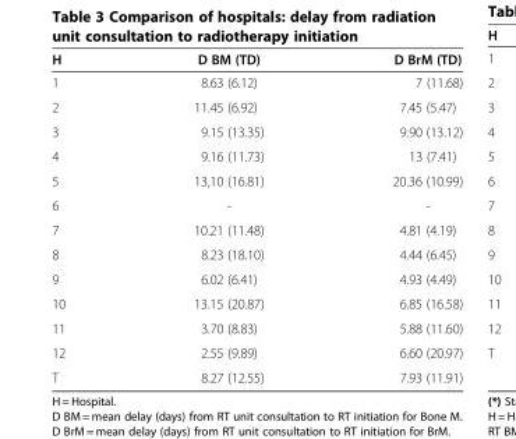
<table><thead><tr><td>H</td><td>D BM (TD)</td><td>D BrM (TD)</td></tr></thead><tbody><tr><td>1</td><td>8.63 (6.12)</td><td>7 (11.68)</td></tr><tr><td>2</td><td>11.45 (6.92)</td><td>7.45 (5.47)</td></tr><tr><td>3</td><td>9.15 (13.35)</td><td>9.90 (13.12)</td></tr><tr><td>4</td><td>9.16 (11.73)</td><td>13 (7.41)</td></tr><tr><td>5</td><td>13,10 (16.81)</td><td>20.36 (10.99)</td></tr><tr><td>6</td><td>-</td><td>-</td></tr><tr><td>7</td><td>10.21 (11.48)</td><td>4.81 (4.19)</td></tr><tr><td>8</td><td>8.23 (18.10)</td><td>4.44 (6.45)</td></tr><tr><td>9</td><td>6.02 (6.41)</td><td>4.93 (4.49)</td></tr><tr><td>10</td><td>13.15 (20.87)</td><td>6.85 (16.58)</td></tr><tr><td>11</td><td>3.70 (8.83)</td><td>5.88 (11.60)</td></tr><tr><td>12</td><td>2.55 (9.89)</td><td>6.60 (20.97)</td></tr><tr><td>T</td><td>8.27 (12.55)</td><td>7.93 (11.91)</td></tr></tbody></table>